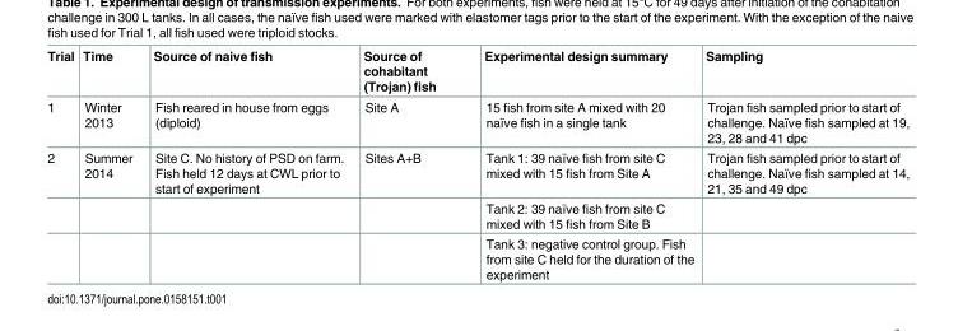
<table><thead><tr><td>Trial</td><td>Time</td><td>Source of naive fish</td><td>Source of cohabitant (Trojan) fish</td><td>Experimental design summary</td><td>Sampling</td></tr></thead><tbody><tr><td>1</td><td>Winter 2013</td><td>Fish reared in house from eggs (diploid)</td><td>Site A</td><td>15 fish from site A mixed with 20 naïve fish in a single tank</td><td>Trojan fish sampled prior to start of challenge. Naïve fish sampled at 19, 23, 28 and 41 dpc</td></tr><tr><td rowspan="3">2</td><td>Summer 2014</td><td>Site C. No history of PSD on farm. Fish held 12 days at CWL prior to start of experiment</td><td>Sites A+B</td><td>Tank 1: 39 naïve fish from site C mixed with 15 fish from Site A</td><td>Trojan fish sampled prior to start of challenge. Naïve fish sampled at 14, 21, 35 and 49 dpc</td></tr><tr><td></td><td></td><td></td><td>Tank 2: 39 naïve fish from site C mixed with 15 fish from Site B</td><td></td></tr><tr><td></td><td></td><td></td><td>Tank 3: negative control group. Fish from site C held for the duration of the experiment</td><td></td></tr></tbody></table>